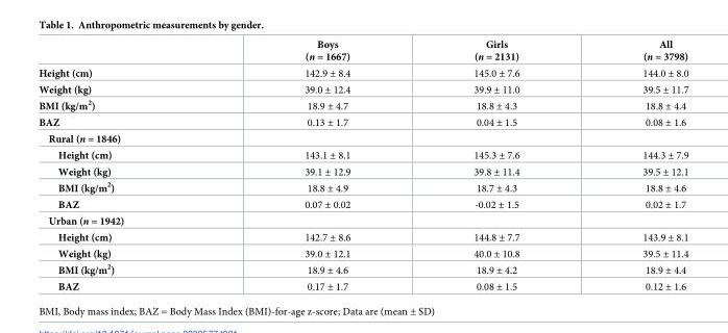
<table><thead><tr><td></td><td>Boys (n = 1667)</td><td>Girls (n = 2131)</td><td>All (n = 3798)</td></tr></thead><tbody><tr><td>Height (cm)</td><td>142.9 ± 8.4</td><td>145.0 ± 7.6</td><td>144.0 ± 8.0</td></tr><tr><td>Weight (kg)</td><td>39.0 ± 12.4</td><td>39.9 ± 11.0</td><td>39.5 ± 11.7</td></tr><tr><td>BMI (kg/m<sup>2</sup>)</td><td>18.9 ± 4.7</td><td>18.8 ± 4.3</td><td>18.8 ± 4.4</td></tr><tr><td>BAZ</td><td>0.13 ± 1.7</td><td>0.04 ± 1.5</td><td>0.08 ± 1.6</td></tr><tr><td colspan="4">Rural (n = 1846)</td></tr><tr><td>Height (cm)</td><td>143.1 ± 8.1</td><td>145.3 ± 7.6</td><td>144.3 ± 7.9</td></tr><tr><td>Weight (kg)</td><td>39.1 ± 12.9</td><td>39.8 ± 11.4</td><td>39.5 ± 12.1</td></tr><tr><td>BMI (kg/m<sup>2</sup>)</td><td>18.8 ± 4.9</td><td>18.7 ± 4.3</td><td>18.8 ± 4.6</td></tr><tr><td>BAZ</td><td>0.07 ± 0.02</td><td>-0.02 ± 1.5</td><td>0.02 ± 1.7</td></tr><tr><td colspan="4">Urban (n = 1942)</td></tr><tr><td>Height (cm)</td><td>142.7 ± 8.6</td><td>144.8 ± 7.7</td><td>143.9 ± 8.1</td></tr><tr><td>Weight (kg)</td><td>39.0 ± 12.1</td><td>40.0 ± 10.8</td><td>39.5 ± 11.4</td></tr><tr><td>BMI (kg/m<sup>2</sup>)</td><td>18.9 ± 4.6</td><td>18.9 ± 4.2</td><td>18.9 ± 4.4</td></tr><tr><td>BAZ</td><td>0.17 ± 1.7</td><td>0.08 ± 1.5</td><td>0.12 ± 1.6</td></tr></tbody></table>